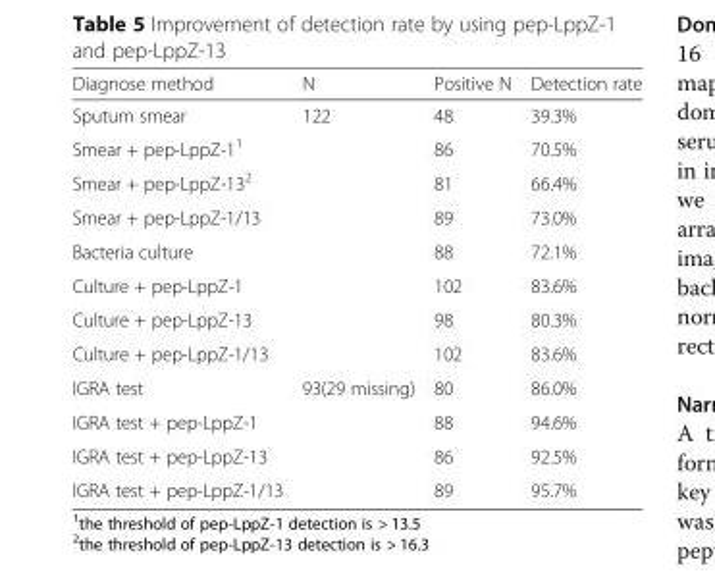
<table><thead><tr><td>Diagnose method</td><td>N</td><td>Positive N</td><td>Detection rate</td></tr></thead><tbody><tr><td>Sputum smear</td><td rowspan="7">122</td><td>48</td><td>39.3%</td></tr><tr><td>Smear + pep-LppZ-1<sup>1</sup></td><td>86</td><td>70.5%</td></tr><tr><td>Smear + pep-LppZ-13<sup>2</sup></td><td>81</td><td>66.4%</td></tr><tr><td>Smear + pep-LppZ-1/13</td><td>89</td><td>73.0%</td></tr><tr><td>Bacteria culture</td><td>88</td><td>72.1%</td></tr><tr><td>Culture + pep-LppZ-1</td><td>102</td><td>83.6%</td></tr><tr><td>Culture + pep-LppZ-13</td><td>98</td><td>80.3%</td></tr><tr><td>Culture + pep-LppZ-1/13</td><td></td><td>102</td><td>83.6%</td></tr><tr><td>IGRA test</td><td rowspan="4">93(29 missing)</td><td>80</td><td>86.0%</td></tr><tr><td>IGRA test + pep-LppZ-1</td><td>88</td><td>94.6%</td></tr><tr><td>IGRA test + pep-LppZ-13</td><td>86</td><td>92.5%</td></tr><tr><td>IGRA test + pep-LppZ-1/13</td><td>89</td><td>95.7%</td></tr></tbody></table>